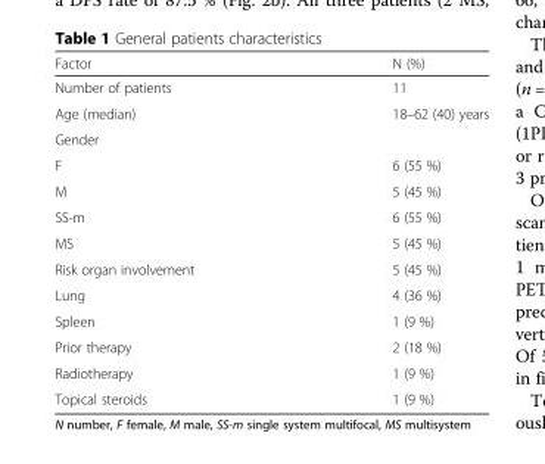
<table><thead><tr><td>Factor</td><td>N (%)</td></tr></thead><tbody><tr><td>Number of patients</td><td>11</td></tr><tr><td>Age (median)</td><td>18–62 (40) years</td></tr><tr><td colspan="2">Gender</td></tr><tr><td>F</td><td>6 (55 %)</td></tr><tr><td>M</td><td>5 (45 %)</td></tr><tr><td>SS-m</td><td>6 (55 %)</td></tr><tr><td>MS</td><td>5 (45 %)</td></tr><tr><td>Risk organ involvement</td><td>5 (45 %)</td></tr><tr><td>Lung</td><td>4 (36 %)</td></tr><tr><td>Spleen</td><td>1 (9 %)</td></tr><tr><td>Prior therapy</td><td>2 (18 %)</td></tr><tr><td>Radiotherapy</td><td>1 (9 %)</td></tr><tr><td>Topical steroids</td><td>1 (9 %)</td></tr></tbody></table>